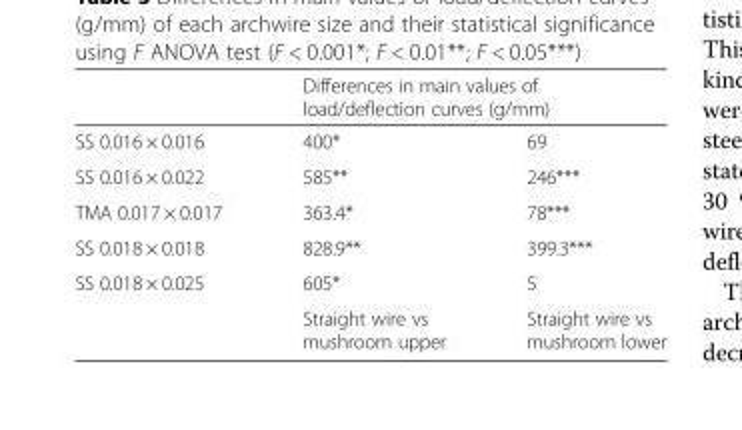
<table><thead><tr><td rowspan="2">SS 0.016 × 0.016</td><td colspan="2">Differences in main values of load/deflection curves (g/mm)</td></tr><tr><td>400*</td><td>69</td></tr></thead><tbody><tr><td>SS 0.016 × 0.022</td><td>585**</td><td>246***</td></tr><tr><td>TMA 0.017 × 0.017</td><td>363.4*</td><td>78***</td></tr><tr><td>SS 0.018 × 0.018</td><td>828.9**</td><td>399.3***</td></tr><tr><td rowspan="2">SS 0.018 × 0.025</td><td>605*</td><td>5</td></tr><tr><td>Straight wire vs mushroom upper</td><td>Straight wire vs mushroom lower</td></tr></tbody></table>